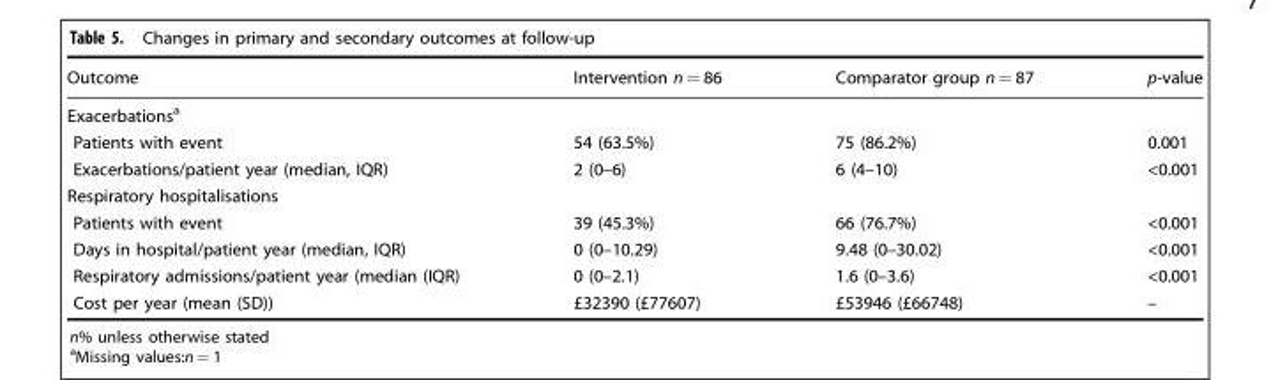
<table><thead><tr><td>Outcome</td><td>Intervention n = 86</td><td>Comparator group n = 87</td><td>p-value</td></tr></thead><tbody><tr><td colspan="4">Exacerbations<sup>a</sup></td></tr><tr><td>Patients with event</td><td>54 (63.5%)</td><td>75 (86.2%)</td><td>0.001</td></tr><tr><td>Exacerbations/patient year (median, IQR)</td><td>2 (0–6)</td><td>6 (4–10)</td><td>&lt;0.001</td></tr><tr><td colspan="4">Respiratory hospitalisations</td></tr><tr><td>Patients with event</td><td>39 (45.3%)</td><td>66 (76.7%)</td><td>&lt;0.001</td></tr><tr><td>Days in hospital/patient year (median, IQR)</td><td>0 (0–10.29)</td><td>9.48 (0–30.02)</td><td>&lt;0.001</td></tr><tr><td>Respiratory admissions/patient year (median (IQR)</td><td>0 (0–2.1)</td><td>1.6 (0–3.6)</td><td>&lt;0.001</td></tr><tr><td>Cost per year (mean (SD))</td><td>£32390 (£77607)</td><td>£53946 (£66748)</td><td>–</td></tr></tbody></table>